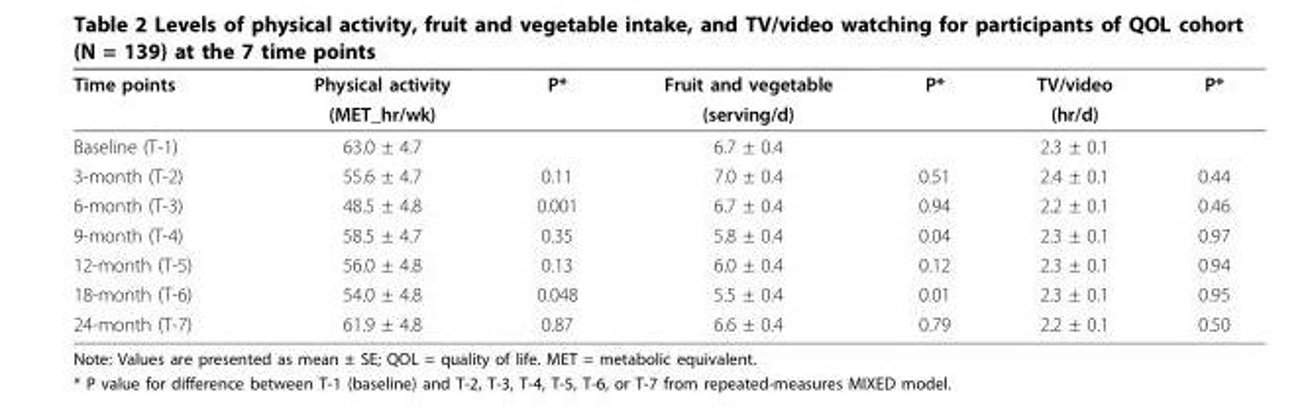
<table><thead><tr><td rowspan="2">Time points</td><td rowspan="2">Physical activity (MET_hr/wk)</td><td rowspan="2">P*</td><td rowspan="2">Fruit and vegetable (serving/d)</td><td rowspan="2">P*</td><td rowspan="2">TV/video (hr/d)</td><td rowspan="2">P*</td></tr><tr></tr></thead><tbody><tr><td>Baseline (T-1)</td><td>63.0 ± 4.7</td><td></td><td>6.7 ± 0.4</td><td></td><td>2.3 ± 0.1</td><td></td></tr><tr><td>3-month (T-2)</td><td>55.6 ± 4.7</td><td>0.11</td><td>7.0 ± 0.4</td><td>0.51</td><td>2.4 ± 0.1</td><td>0.44</td></tr><tr><td>6-month (T-3)</td><td>48.5 ± 4.8</td><td>0.001</td><td>6.7 ± 0.4</td><td>0.94</td><td>2.2 ± 0.1</td><td>0.46</td></tr><tr><td>9-month (T-4)</td><td>58.5 ± 4.7</td><td>0.35</td><td>5.8 ± 0.4</td><td>0.04</td><td>2.3 ± 0.1</td><td>0.97</td></tr><tr><td>12-month (T-5)</td><td>56.0 ± 4.8</td><td>0.13</td><td>6.0 ± 0.4</td><td>0.12</td><td>2.3 ± 0.1</td><td>0.94</td></tr><tr><td>18-month (T-6)</td><td>54.0 ± 4.8</td><td>0.048</td><td>5.5 ± 0.4</td><td>0.01</td><td>2.3 ± 0.1</td><td>0.95</td></tr><tr><td>24-month (T-7)</td><td>61.9 ± 4.8</td><td>0.87</td><td>6.6 ± 0.4</td><td>0.79</td><td>2.2 ± 0.1</td><td>0.50</td></tr></tbody></table>